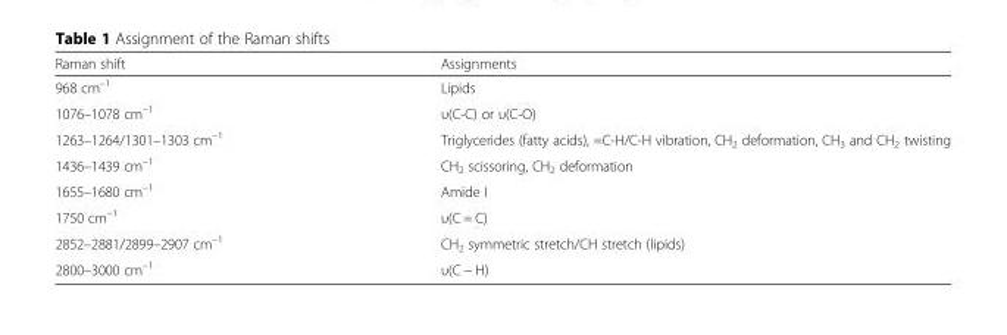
<table><thead><tr><td>Raman shift</td><td>Assignments</td></tr></thead><tbody><tr><td>968 cm<sup>–1</sup></td><td>Lipids</td></tr><tr><td>1076–1078 cm<sup>–1</sup></td><td>υ(C-C) or υ(C-O)</td></tr><tr><td>1263–1264/1301–1303 cm<sup>–1</sup></td><td>Triglycerides (fatty acids), =C-H/C-H vibration, CH<sub>2</sub> deformation, CH<sub>3</sub> and CH<sub>2</sub> twisting</td></tr><tr><td>1436–1439 cm<sup>–1</sup></td><td>CH<sub>2</sub> scissoring, CH<sub>2</sub> deformation</td></tr><tr><td>1655–1680 cm<sup>–1</sup></td><td>Amide I</td></tr><tr><td>1750 cm<sup>–1</sup></td><td>υ(C = C)</td></tr><tr><td>2852–2881/2899–2907 cm<sup>–1</sup></td><td>CH<sub>2</sub> symmetric stretch/CH stretch (lipids)</td></tr><tr><td>2800–3000 cm<sup>–1</sup></td><td>υ(C − Η)</td></tr></tbody></table>